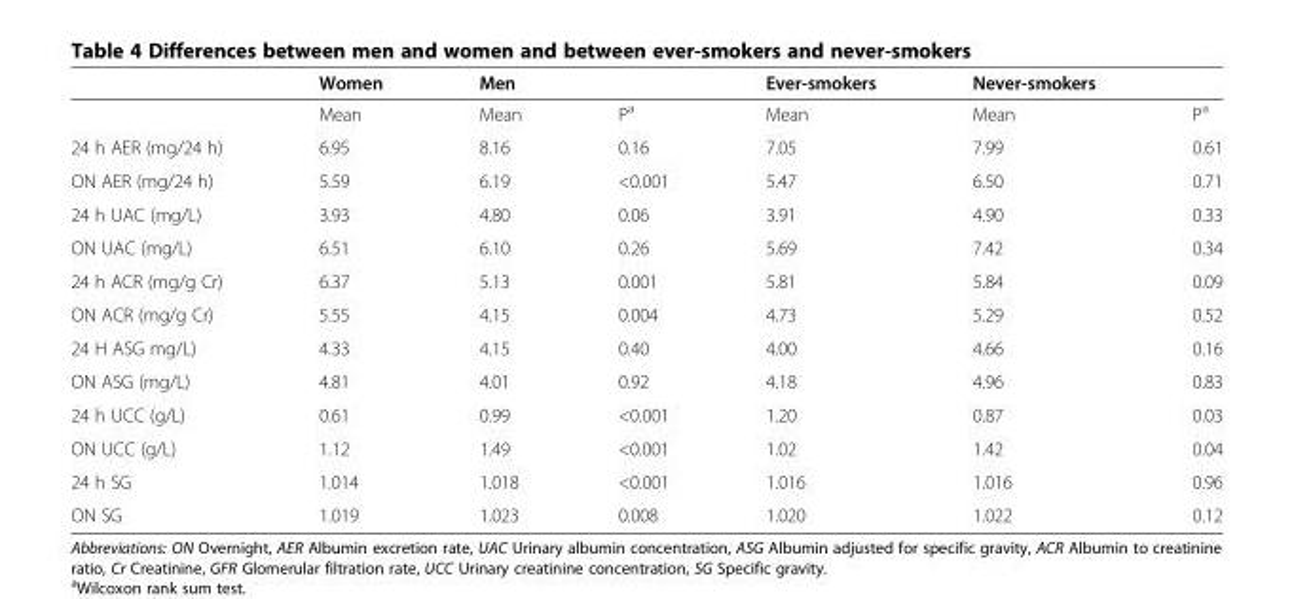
<table><thead><tr><td></td><td>Women</td><td>Men</td><td></td><td>Ever-smokers</td><td>Never-smokers</td><td></td></tr></thead><tbody><tr><td></td><td>Mean</td><td>Mean</td><td>P<sup>a</sup></td><td>Mean</td><td>Mean</td><td>P<sup>a</sup></td></tr><tr><td>24 h AER (mg/24 h)</td><td>6.95</td><td>8.16</td><td>0.16</td><td>7.05</td><td>7.99</td><td>0.61</td></tr><tr><td>ON AER (mg/24 h)</td><td>5.59</td><td>6.19</td><td>&lt;0.001</td><td>5.47</td><td>6.50</td><td>0.71</td></tr><tr><td>24 h UAC (mg/L)</td><td>3.93</td><td>4.80</td><td>0.06</td><td>3.91</td><td>4.90</td><td>0.33</td></tr><tr><td>ON UAC (mg/L)</td><td>6.51</td><td>6.10</td><td>0.26</td><td>5.69</td><td>7.42</td><td>0.34</td></tr><tr><td>24 h ACR (mg/g Cr)</td><td>6.37</td><td>5.13</td><td>0.001</td><td>5.81</td><td>5.84</td><td>0.09</td></tr><tr><td>ON ACR (mg/g Cr)</td><td>5.55</td><td>4.15</td><td>0.004</td><td>4.73</td><td>5.29</td><td>0.52</td></tr><tr><td>24 H ASG mg/L)</td><td>4.33</td><td>4.15</td><td>0.40</td><td>4.00</td><td>4.66</td><td>0.16</td></tr><tr><td>ON ASG (mg/L)</td><td>4.81</td><td>4.01</td><td>0.92</td><td>4.18</td><td>4.96</td><td>0.83</td></tr><tr><td>24 h UCC (g/L)</td><td>0.61</td><td>0.99</td><td>&lt;0.001</td><td>1.20</td><td>0.87</td><td>0.03</td></tr><tr><td>ON UCC (g/L)</td><td>1.12</td><td>1.49</td><td>&lt;0.001</td><td>1.02</td><td>1.42</td><td>0.04</td></tr><tr><td>24 h SG</td><td>1.014</td><td>1.018</td><td>&lt;0.001</td><td>1.016</td><td>1.016</td><td>0.96</td></tr><tr><td>ON SG</td><td>1.019</td><td>1.023</td><td>0.008</td><td>1.020</td><td>1.022</td><td>0.12</td></tr></tbody></table>